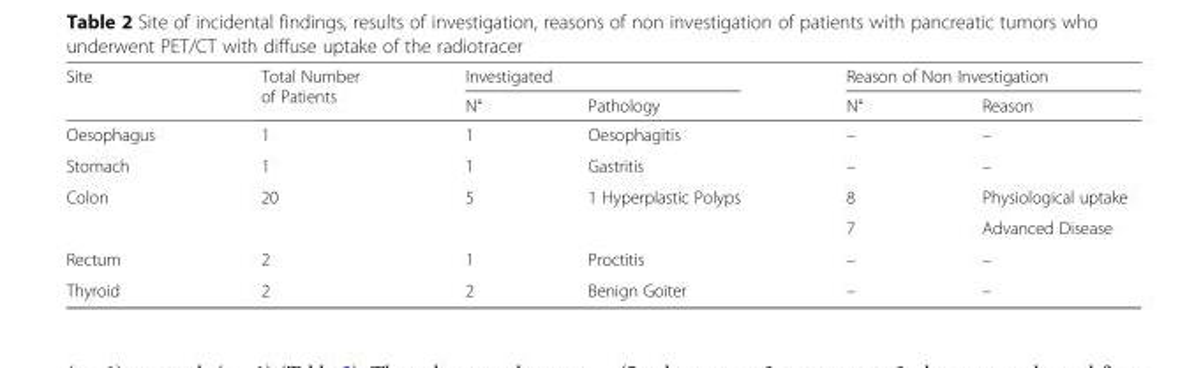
<table><thead><tr><td rowspan="2">Site</td><td rowspan="2">Total Number of Patients</td><td colspan="2">Investigated</td><td colspan="2">Reason of Non Investigation</td></tr><tr><td>N°</td><td>Pathology</td><td>N°</td><td>Reason</td></tr></thead><tbody><tr><td>Oesophagus</td><td>1</td><td>1</td><td>Oesophagitis</td><td>–</td><td>–</td></tr><tr><td>Stomach</td><td>1</td><td>1</td><td>Gastritis</td><td>–</td><td>–</td></tr><tr><td rowspan="2">Colon</td><td rowspan="2">20</td><td rowspan="2">5</td><td rowspan="2">1 Hyperplastic Polyps</td><td>8</td><td>Physiological uptake</td></tr><tr><td>7</td><td>Advanced Disease</td></tr><tr><td>Rectum</td><td>2</td><td>1</td><td>Proctitis</td><td>–</td><td>–</td></tr><tr><td>Thyroid</td><td>2</td><td>2</td><td>Benign Goiter</td><td>–</td><td>–</td></tr></tbody></table>